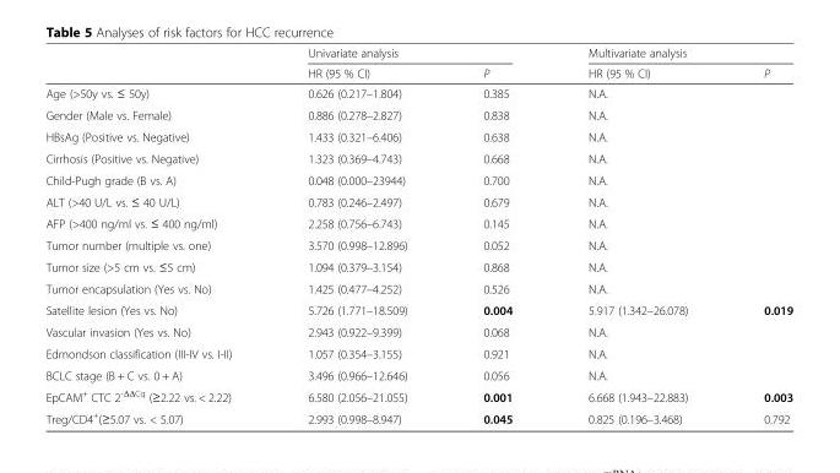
<table><thead><tr><td rowspan="2"></td><td colspan="2">Univariate analysis</td><td colspan="2">Multivariate analysis</td></tr><tr><td>HR (95 % CI)</td><td>P</td><td>HR (95 % CI)</td><td>P</td></tr></thead><tbody><tr><td>Age (&gt;50y vs. ≤ 50y)</td><td>0.626 (0.217–1.804)</td><td>0.385</td><td>N.A.</td><td></td></tr><tr><td>Gender (Male vs. Female)</td><td>0.886 (0.278–2.827)</td><td>0.838</td><td>N.A.</td><td></td></tr><tr><td>HBsAg (Positive vs. Negative)</td><td>1.433 (0.321–6.406)</td><td>0.638</td><td>N.A.</td><td></td></tr><tr><td>Cirrhosis (Positive vs. Negative)</td><td>1.323 (0.369–4.743)</td><td>0.668</td><td>N.A.</td><td></td></tr><tr><td>Child-Pugh grade (B vs. A)</td><td>0.048 (0.000–23944)</td><td>0.700</td><td>N.A.</td><td></td></tr><tr><td>ALT (&gt;40 U/L vs. ≤ 40 U/L)</td><td>0.783 (0.246–2.497)</td><td>0.679</td><td>N.A.</td><td></td></tr><tr><td>AFP (&gt;400 ng/ml vs. ≤ 400 ng/ml)</td><td>2.258 (0.756–6.743)</td><td>0.145</td><td>N.A.</td><td></td></tr><tr><td>Tumor number (multiple vs. one)</td><td>3.570 (0.998–12.896)</td><td>0.052</td><td>N.A.</td><td></td></tr><tr><td>Tumor size (&gt;5 cm vs. ≤5 cm)</td><td>1.094 (0.379–3.154)</td><td>0.868</td><td>N.A.</td><td></td></tr><tr><td>Tumor encapsulation (Yes vs. No)</td><td>1.425 (0.477–4.252)</td><td>0.526</td><td>N.A.</td><td></td></tr><tr><td>Satellite lesion (Yes vs. No)</td><td>5.726 (1.771–18.509)</td><td>0.004</td><td>5.917 (1.342–26.078)</td><td>0.019</td></tr><tr><td>Vascular invasion (Yes vs. No)</td><td>2.943 (0.922–9.399)</td><td>0.068</td><td>N.A.</td><td></td></tr><tr><td>Edmondson classification (III-IV vs. I-II)</td><td>1.057 (0.354–3.155)</td><td>0.921</td><td>N.A.</td><td></td></tr><tr><td>BCLC stage (B + C vs. 0 + A)</td><td>3.496 (0.966–12.646)</td><td>0.056</td><td>N.A.</td><td></td></tr><tr><td>EpCAM<sup>+</sup> CTC 2<sup>-ΔΔCq</sup> (≥2.22 vs. &lt; 2.22)</td><td>6.580 (2.056–21.055)</td><td>0.001</td><td>6.668 (1.943–22.883)</td><td>0.003</td></tr><tr><td>Treg/CD4<sup>+</sup>(≥5.07 vs. &lt; 5.07)</td><td>2.993 (0.998–8.947)</td><td>0.045</td><td>0.825 (0.196–3.468)</td><td>0.792</td></tr></tbody></table>